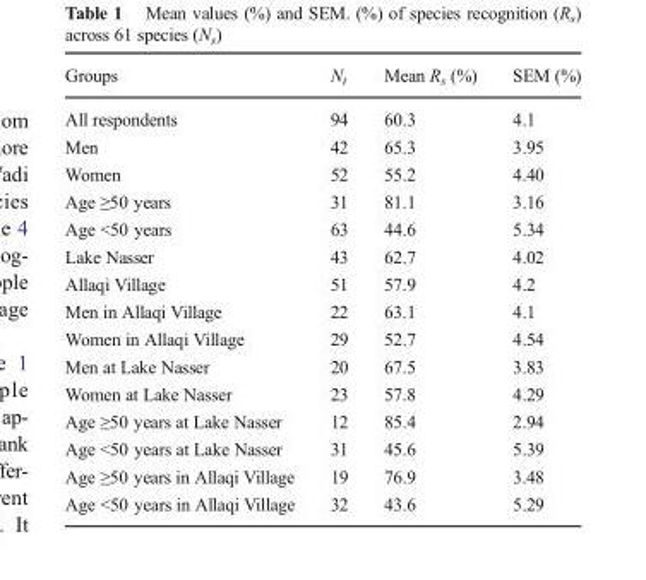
<table><thead><tr><td>Groups</td><td>N<sub>t</sub></td><td>Mean R<sub>s</sub> (%)</td><td>SEM (%)</td></tr></thead><tbody><tr><td>All respondents</td><td>94</td><td>60.3</td><td>4.1</td></tr><tr><td>Men</td><td>42</td><td>65.3</td><td>3.95</td></tr><tr><td>Women</td><td>52</td><td>55.2</td><td>4.40</td></tr><tr><td>Age ≥50 years</td><td>31</td><td>81.1</td><td>3.16</td></tr><tr><td>Age &lt;50 years</td><td>63</td><td>44.6</td><td>5.34</td></tr><tr><td>Lake Nasser</td><td>43</td><td>62.7</td><td>4.02</td></tr><tr><td>Allaqi Village</td><td>51</td><td>57.9</td><td>4.2</td></tr><tr><td>Men in Allaqi Village</td><td>22</td><td>63.1</td><td>4.1</td></tr><tr><td>Women in Allaqi Village</td><td>29</td><td>52.7</td><td>4.54</td></tr><tr><td>Men at Lake Nasser</td><td>20</td><td>67.5</td><td>3.83</td></tr><tr><td>Women at Lake Nasser</td><td>23</td><td>57.8</td><td>4.29</td></tr><tr><td>Age ≥50 years at Lake Nasser</td><td>12</td><td>85.4</td><td>2.94</td></tr><tr><td>Age &lt;50 years at Lake Nasser</td><td>31</td><td>45.6</td><td>5.39</td></tr><tr><td>Age ≥50 years in Allaqi Village</td><td>19</td><td>76.9</td><td>3.48</td></tr><tr><td>Age &lt;50 years in Allaqi Village</td><td>32</td><td>43.6</td><td>5.29</td></tr></tbody></table>